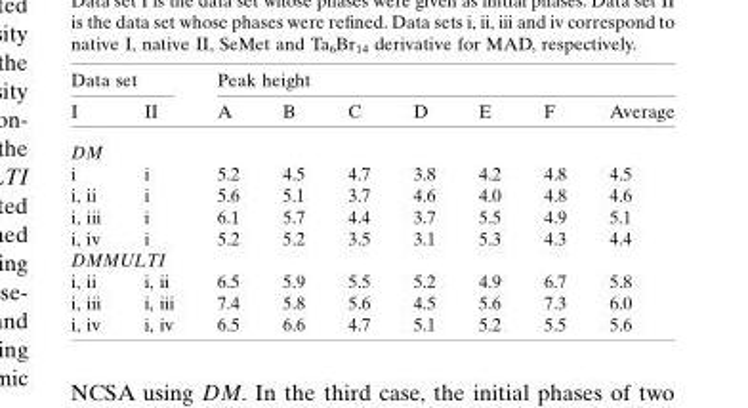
<table><thead><tr><td colspan="2">Data set</td><td colspan="7">Peak height</td></tr><tr><td>I</td><td>II</td><td>A</td><td>B</td><td>C</td><td>D</td><td>E</td><td>F</td><td>Average</td></tr></thead><tbody><tr><td colspan="9">DM</td></tr><tr><td>i</td><td>i</td><td>5.2</td><td>4.5</td><td>4.7</td><td>3.8</td><td>4.2</td><td>4.8</td><td>4.5</td></tr><tr><td>i, ii</td><td>i</td><td>5.6</td><td>5.1</td><td>3.7</td><td>4.6</td><td>4.0</td><td>4.8</td><td>4.6</td></tr><tr><td>i, iii</td><td>i</td><td>6.1</td><td>5.7</td><td>4.4</td><td>3.7</td><td>5.5</td><td>4.9</td><td>5.1</td></tr><tr><td>i, iv</td><td>i</td><td>5.2</td><td>5.2</td><td>3.5</td><td>3.1</td><td>5.3</td><td>4.3</td><td>4.4</td></tr><tr><td colspan="9">DMMULTI</td></tr><tr><td>i, ii</td><td>i, ii</td><td>6.5</td><td>5.9</td><td>5.5</td><td>5.2</td><td>4.9</td><td>6.7</td><td>5.8</td></tr><tr><td>i, iii</td><td>i, iii</td><td>7.4</td><td>5.8</td><td>5.6</td><td>4.5</td><td>5.6</td><td>7.3</td><td>6.0</td></tr><tr><td>i, iv</td><td>i, iv</td><td>6.5</td><td>6.6</td><td>4.7</td><td>5.1</td><td>5.2</td><td>5.5</td><td>5.6</td></tr></tbody></table>